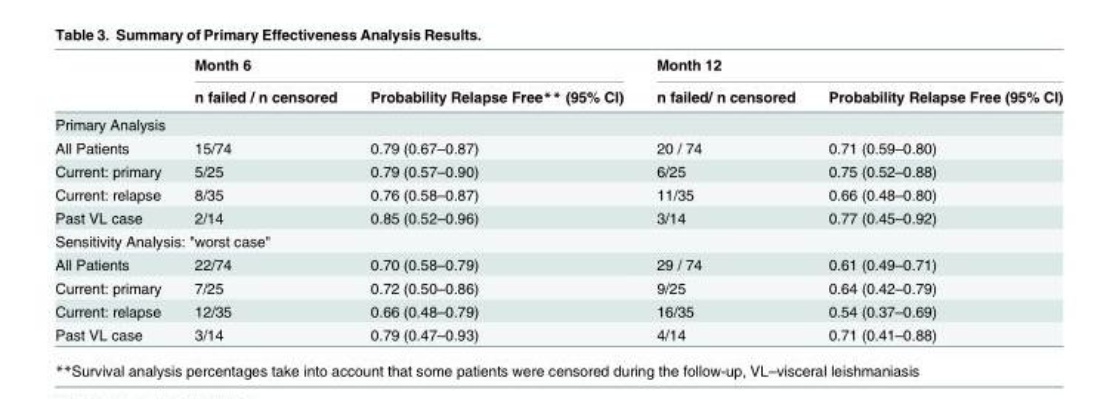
<table><thead><tr><td rowspan="2"></td><td colspan="2">Month 6</td><td colspan="2">Month 12</td></tr><tr><td>n failed / n censored</td><td>Probability Relapse Free** (95% CI)</td><td>n failed/ n censored</td><td>Probability Relapse Free (95% CI)</td></tr></thead><tbody><tr><td colspan="5">Primary Analysis</td></tr><tr><td>All Patients</td><td>15/74</td><td>0.79 (0.67–0.87)</td><td>20 / 74</td><td>0.71 (0.59–0.80)</td></tr><tr><td>Current: primary</td><td>5/25</td><td>0.79 (0.57–0.90)</td><td>6/25</td><td>0.75 (0.52–0.88)</td></tr><tr><td>Current: relapse</td><td>8/35</td><td>0.76 (0.58–0.87)</td><td>11/35</td><td>0.66 (0.48–0.80)</td></tr><tr><td>Past VL case</td><td>2/14</td><td>0.85 (0.52–0.96)</td><td>3/14</td><td>0.77 (0.45–0.92)</td></tr><tr><td colspan="5">Sensitivity Analysis: &quot;worst case&quot;</td></tr><tr><td>All Patients</td><td>22/74</td><td>0.70 (0.58–0.79)</td><td>29 / 74</td><td>0.61 (0.49–0.71)</td></tr><tr><td>Current: primary</td><td>7/25</td><td>0.72 (0.50–0.86)</td><td>9/25</td><td>0.64 (0.42–0.79)</td></tr><tr><td>Current: relapse</td><td>12/35</td><td>0.66 (0.48–0.79)</td><td>16/35</td><td>0.54 (0.37–0.69)</td></tr><tr><td>Past VL case</td><td>3/14</td><td>0.79 (0.47–0.93)</td><td>4/14</td><td>0.71 (0.41–0.88)</td></tr></tbody></table>